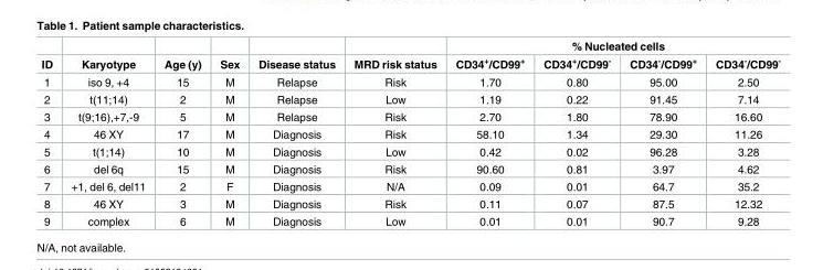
<table><thead><tr><td rowspan="2">ID</td><td rowspan="2">Karyotype</td><td rowspan="2">Age (y)</td><td rowspan="2">Sex</td><td rowspan="2">Disease status</td><td rowspan="2">MRD risk status</td><td colspan="4">% Nucleated cells</td></tr><tr><td>CD34<sup>+</sup>/CD99<sup>+</sup></td><td>CD34<sup>+</sup>/CD99<sup>-</sup></td><td>CD34<sup>-</sup>/CD99<sup>+</sup></td><td>CD34<sup>-</sup>/CD99<sup>-</sup></td></tr></thead><tbody><tr><td>1</td><td>iso 9, +4</td><td>15</td><td>M</td><td>Relapse</td><td>Risk</td><td>1.70</td><td>0.80</td><td>95.00</td><td>2.50</td></tr><tr><td>2</td><td>t(11;14)</td><td>2</td><td>M</td><td>Relapse</td><td>Low</td><td>1.19</td><td>0.22</td><td>91.45</td><td>7.14</td></tr><tr><td>3</td><td>t(9;16),+7,-9</td><td>5</td><td>M</td><td>Relapse</td><td>Risk</td><td>2.70</td><td>1.80</td><td>78.90</td><td>16.60</td></tr><tr><td>4</td><td>46 XY</td><td>17</td><td>M</td><td>Diagnosis</td><td>Risk</td><td>58.10</td><td>1.34</td><td>29.30</td><td>11.26</td></tr><tr><td>5</td><td>t(1;14)</td><td>10</td><td>M</td><td>Diagnosis</td><td>Low</td><td>0.42</td><td>0.02</td><td>96.28</td><td>3.28</td></tr><tr><td>6</td><td>del 6q</td><td>15</td><td>M</td><td>Diagnosis</td><td>Risk</td><td>90.60</td><td>0.81</td><td>3.97</td><td>4.62</td></tr><tr><td>7</td><td>+1, del 6, del11</td><td>2</td><td>F</td><td>Diagnosis</td><td>N/A</td><td>0.09</td><td>0.01</td><td>64.7</td><td>35.2</td></tr><tr><td>8</td><td>46 XY</td><td>3</td><td>M</td><td>Diagnosis</td><td>Risk</td><td>0.11</td><td>0.07</td><td>87.5</td><td>12.32</td></tr><tr><td>9</td><td>complex</td><td>6</td><td>M</td><td>Diagnosis</td><td>Low</td><td>0.01</td><td>0.01</td><td>90.7</td><td>9.28</td></tr></tbody></table>